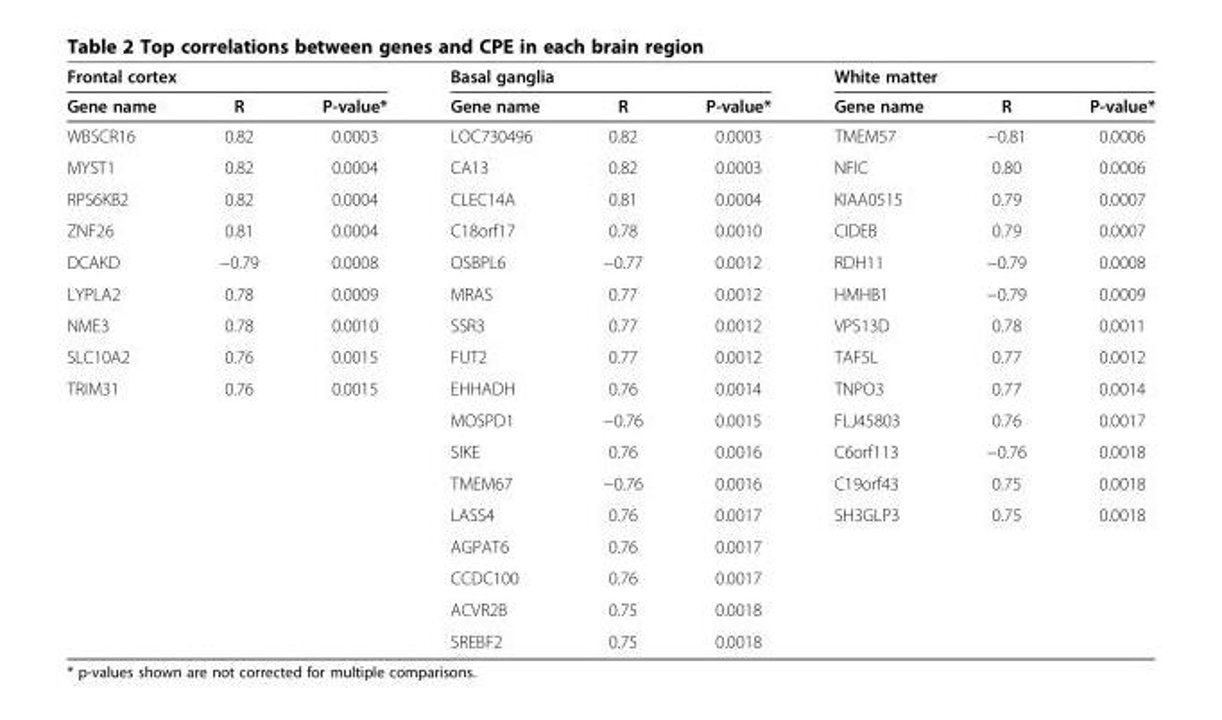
<table><thead><tr><td colspan="3">Frontal cortex</td><td colspan="3">Basal ganglia</td><td colspan="3">White matter</td></tr><tr><td>Gene name</td><td>R</td><td>P-value*</td><td>Gene name</td><td>R</td><td>P-value*</td><td>Gene name</td><td>R</td><td>P-value*</td></tr></thead><tbody><tr><td>WBSCR16</td><td>0.82</td><td>0.0003</td><td>LOC730496</td><td>0.82</td><td>0.0003</td><td>TMEM57</td><td>−0.81</td><td>0.0006</td></tr><tr><td>MYST1</td><td>0.82</td><td>0.0004</td><td>CA13</td><td>0.82</td><td>0.0003</td><td>NFIC</td><td>0.80</td><td>0.0006</td></tr><tr><td>RPS6KB2</td><td>0.82</td><td>0.0004</td><td>CLEC14A</td><td>0.81</td><td>0.0004</td><td>KIAA0515</td><td>0.79</td><td>0.0007</td></tr><tr><td>ZNF26</td><td>0.81</td><td>0.0004</td><td>C18orf17</td><td>0.78</td><td>0.0010</td><td>CIDEB</td><td>0.79</td><td>0.0007</td></tr><tr><td>DCAKD</td><td>−0.79</td><td>0.0008</td><td>OSBPL6</td><td>−0.77</td><td>0.0012</td><td>RDH11</td><td>−0.79</td><td>0.0008</td></tr><tr><td>LYPLA2</td><td>0.78</td><td>0.0009</td><td>MRAS</td><td>0.77</td><td>0.0012</td><td>HMHB1</td><td>−0.79</td><td>0.0009</td></tr><tr><td>NME3</td><td>0.78</td><td>0.0010</td><td>SSR3</td><td>0.77</td><td>0.0012</td><td>VPS13D</td><td>0.78</td><td>0.0011</td></tr><tr><td>SLC10A2</td><td>0.76</td><td>0.0015</td><td>FUT2</td><td>0.77</td><td>0.0012</td><td>TAF5L</td><td>0.77</td><td>0.0012</td></tr><tr><td rowspan="9">TRIM31</td><td>0.76</td><td>0.0015</td><td>EHHADH</td><td>0.76</td><td>0.0014</td><td>TNPO3</td><td>0.77</td><td>0.0014</td></tr><tr><td></td><td></td><td>MOSPD1</td><td>−0.76</td><td>0.0015</td><td>FLJ45803</td><td>0.76</td><td>0.0017</td></tr><tr><td></td><td></td><td>SIKE</td><td>0.76</td><td>0.0016</td><td>C6orf113</td><td>−0.76</td><td>0.0018</td></tr><tr><td></td><td></td><td>TMEM67</td><td>−0.76</td><td>0.0016</td><td>C19orf43</td><td>0.75</td><td>0.0018</td></tr><tr><td></td><td></td><td>LASS4</td><td>0.76</td><td>0.0017</td><td>SH3GLP3</td><td>0.75</td><td>0.0018</td></tr><tr><td></td><td></td><td>AGPAT6</td><td>0.76</td><td>0.0017</td><td></td><td></td><td></td></tr><tr><td></td><td></td><td>CCDC100</td><td>0.76</td><td>0.0017</td><td></td><td></td><td></td></tr><tr><td></td><td></td><td>ACVR2B</td><td>0.75</td><td>0.0018</td><td></td><td></td><td></td></tr><tr><td></td><td></td><td>SREBF2</td><td>0.75</td><td>0.0018</td><td></td><td></td><td></td></tr></tbody></table>